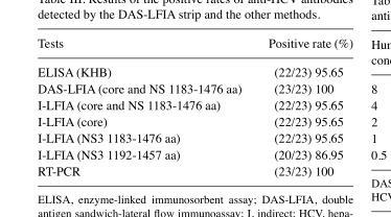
<table><thead><tr><td>Tests</td><td>Positive rate (%)</td></tr></thead><tbody><tr><td>ELISA (KHB)</td><td>(22/23) 95.65</td></tr><tr><td>DAS-LFIA (core and NS 1183-1476 aa)</td><td>(23/23) 100</td></tr><tr><td>I-LFIA (core and NS 1183-1476 aa)</td><td>(22/23) 95.65</td></tr><tr><td>I-LFIA (core)</td><td>(22/23) 95.65</td></tr><tr><td>I-LFIA (NS3 1183-1476 aa)</td><td>(22/23) 95.65</td></tr><tr><td>I-LFIA (NS3 1192-1457 aa)</td><td>(20/23) 86.95</td></tr><tr><td>RT-PCR</td><td>(23/23) 100</td></tr></tbody></table>